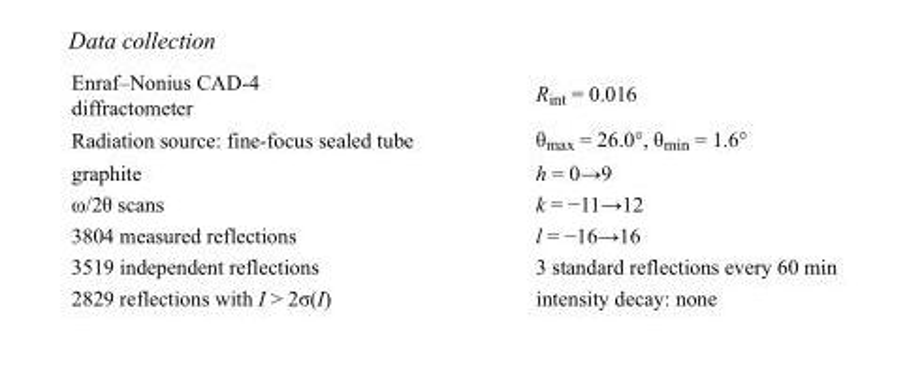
<table><tbody><tr><td>Enraf–Nonius CAD-4 diffractometer</td><td>R<sub>int</sub> = 0.016</td></tr><tr><td>Radiation source: fine-focus sealed tube</td><td>θ<sub>max</sub> = 26.0°, θ<sub>min</sub> = 1.6°</td></tr><tr><td>graphite</td><td>h = 0→9</td></tr><tr><td>ω/2θ scans</td><td>k = −11→12</td></tr><tr><td>3804 measured reflections</td><td>l = −16→16</td></tr><tr><td>3519 independent reflections</td><td>3 standard reflections every 60 min</td></tr><tr><td>2829 reflections with I &gt; 2σ(I)</td><td>intensity decay: none</td></tr></tbody></table>